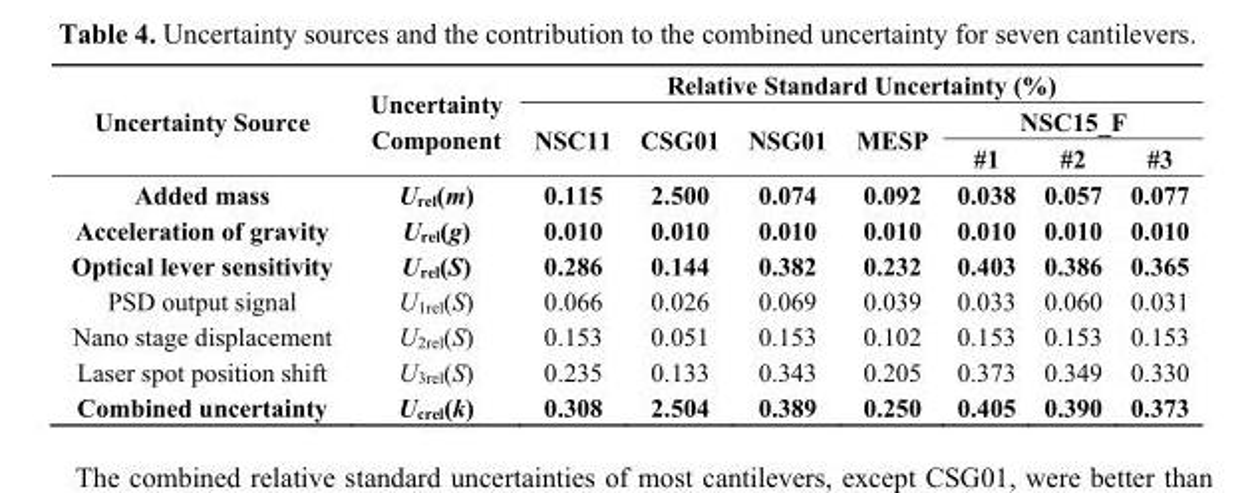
<table><thead><tr><td rowspan="3">Uncertainty Source</td><td rowspan="3">Uncertainty Component</td><td colspan="7">Relative Standard Uncertainty (%)</td></tr><tr><td rowspan="2">NSC11</td><td rowspan="2">CSG01</td><td rowspan="2">NSG01</td><td rowspan="2">MESP</td><td colspan="3">NSC15_F</td></tr><tr><td>#1</td><td>#2</td><td>#3</td></tr></thead><tbody><tr><td>Added mass</td><td>U<sub>rel</sub>(m)</td><td>0.115</td><td>2.500</td><td>0.074</td><td>0.092</td><td>0.038</td><td>0.057</td><td>0.077</td></tr><tr><td>Acceleration of gravity</td><td>U<sub>rel</sub>(g)</td><td>0.010</td><td>0.010</td><td>0.010</td><td>0.010</td><td>0.010</td><td>0.010</td><td>0.010</td></tr><tr><td>Optical lever sensitivity</td><td>U<sub>rel</sub>(S)</td><td>0.286</td><td>0.144</td><td>0.382</td><td>0.232</td><td>0.403</td><td>0.386</td><td>0.365</td></tr><tr><td>PSD output signal</td><td>U<sub>1rel</sub>(S)</td><td>0.066</td><td>0.026</td><td>0.069</td><td>0.039</td><td>0.033</td><td>0.060</td><td>0.031</td></tr><tr><td>Nano stage displacement</td><td>U<sub>2rel</sub>(S)</td><td>0.153</td><td>0.051</td><td>0.153</td><td>0.102</td><td>0.153</td><td>0.153</td><td>0.153</td></tr><tr><td>Laser spot position shift</td><td>U<sub>3rel</sub>(S)</td><td>0.235</td><td>0.133</td><td>0.343</td><td>0.205</td><td>0.373</td><td>0.349</td><td>0.330</td></tr><tr><td>Combined uncertainty</td><td>U<sub>crel</sub>(k)</td><td>0.308</td><td>2.504</td><td>0.389</td><td>0.250</td><td>0.405</td><td>0.390</td><td>0.373</td></tr></tbody></table>